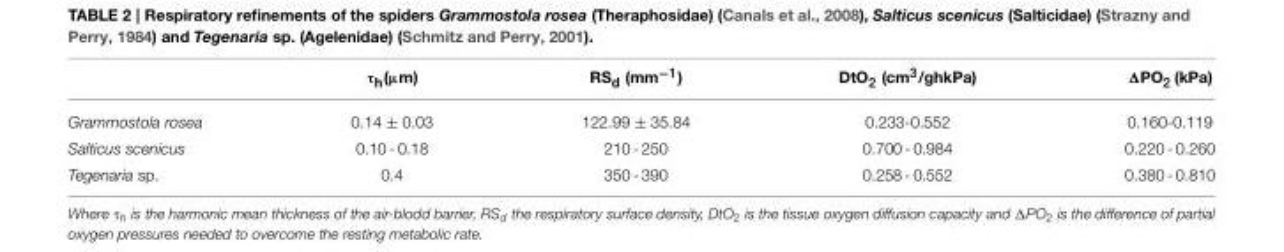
<table><thead><tr><td></td><td>τ<sub>h</sub>(µm)</td><td>RS<sub>d</sub> (mm<sup>−1</sup>)</td><td>DtO<sub>2</sub> (cm<sup>3</sup>/ghkPa)</td><td>ΔPO<sub>2</sub> (kPa)</td></tr></thead><tbody><tr><td>Grammostola rosea</td><td>0.14 ± 0.03</td><td>122.99 ± 35.84</td><td>0.233-0.552</td><td>0.160-0.119</td></tr><tr><td>Salticus scenicus</td><td>0.10 - 0.18</td><td>210 - 250</td><td>0.700 - 0.984</td><td>0.220 - 0.260</td></tr><tr><td>Tegenaria sp.</td><td>0.4</td><td>350 - 390</td><td>0.258 - 0.552</td><td>0.380 - 0.810</td></tr></tbody></table>